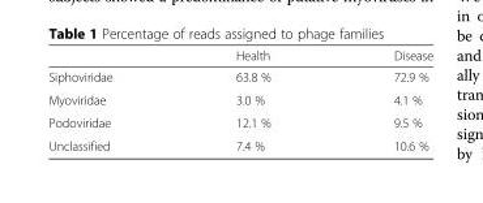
<table><thead><tr><td></td><td>Health</td><td>Disease</td></tr></thead><tbody><tr><td>Siphoviridae</td><td>63.8 %</td><td>72.9 %</td></tr><tr><td>Myoviridae</td><td>3.0 %</td><td>4.1 %</td></tr><tr><td>Podoviridae</td><td>12.1 %</td><td>9.5 %</td></tr><tr><td>Unclassified</td><td>7.4 %</td><td>10.6 %</td></tr></tbody></table>